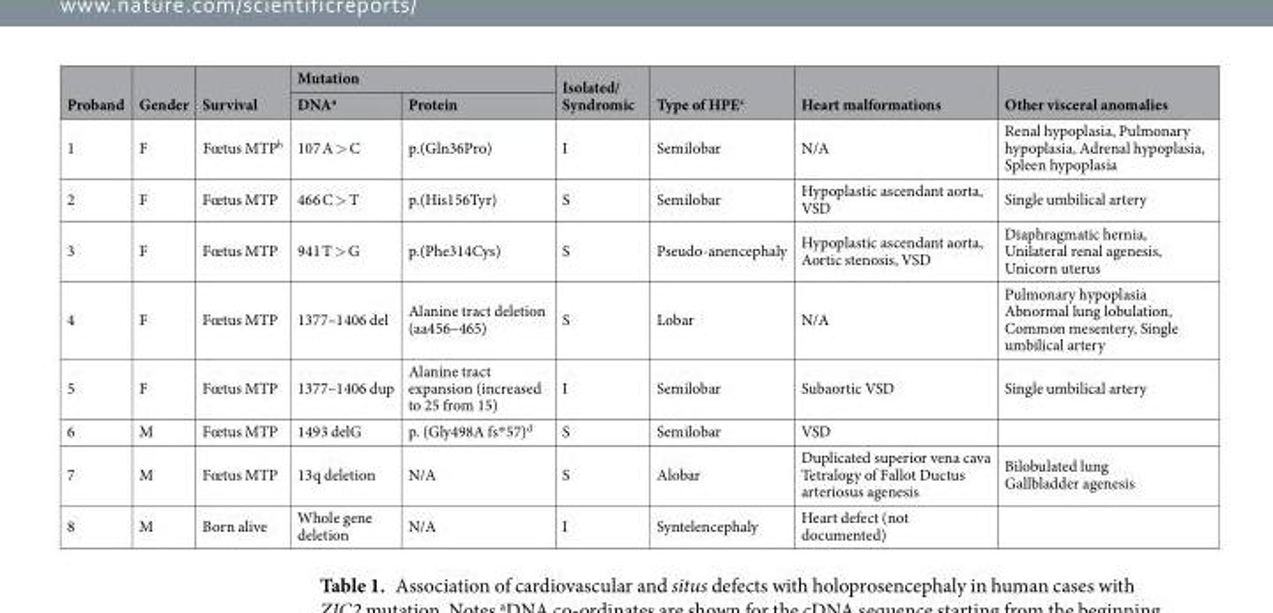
<table><thead><tr><td rowspan="2">Proband</td><td rowspan="2">Gender</td><td rowspan="2">Survival</td><td colspan="2">Mutation</td><td rowspan="2">Isolated/ Syndromic</td><td rowspan="2">Type of HPE<sup>c</sup></td><td rowspan="2">Heart malformations</td><td rowspan="2">Other visceral anomalies</td></tr><tr><td>DNA<sup>a</sup></td><td>Protein</td></tr></thead><tbody><tr><td>1</td><td>F</td><td>Fœtus MTP<sup>b</sup></td><td>107 A &gt; C</td><td>p.(Gln36Pro)</td><td>I</td><td>Semilobar</td><td>N/A</td><td>Renal hypoplasia, Pulmonary hypoplasia, Adrenal hypoplasia, Spleen hypoplasia</td></tr><tr><td>2</td><td>F</td><td>Fœtus MTP</td><td>466 C &gt; T</td><td>p.(His156Tyr)</td><td>S</td><td>Semilobar</td><td>Hypoplastic ascendant aorta, VSD</td><td>Single umbilical artery</td></tr><tr><td>3</td><td>F</td><td>Fœtus MTP</td><td>941 T &gt; G</td><td>p.(Phe314Cys)</td><td>S</td><td>Pseudo-anencephaly</td><td>Hypoplastic ascendant aorta, Aortic stenosis, VSD</td><td>Diaphragmatic hernia, Unilateral renal agenesis, Unicorn uterus</td></tr><tr><td>4</td><td>F</td><td>Fœtus MTP</td><td>1377–1406 del</td><td>Alanine tract deletion (aa456–465)</td><td>S</td><td>Lobar</td><td>N/A</td><td>Pulmonary hypoplasia Abnormal lung lobulation, Common mesentery, Single umbilical artery</td></tr><tr><td>5</td><td>F</td><td>Fœtus MTP</td><td>1377–1406 dup</td><td>Alanine tract expansion (increased to 25 from 15)</td><td>I</td><td>Semilobar</td><td>Subaortic VSD</td><td>Single umbilical artery</td></tr><tr><td>6</td><td>M</td><td>Fœtus MTP</td><td>1493 delG</td><td>p. (Gly498A fs*57)<sup>d</sup></td><td>S</td><td>Semilobar</td><td>VSD</td><td></td></tr><tr><td>7</td><td>M</td><td>Fœtus MTP</td><td>13q deletion</td><td>N/A</td><td>S</td><td>Alobar</td><td>Duplicated superior vena cava Tetralogy of Fallot Ductus arteriosus agenesis</td><td>Bilobulated lung Gallbladder agenesis</td></tr><tr><td>8</td><td>M</td><td>Born alive</td><td>Whole gene deletion</td><td>N/A</td><td>I</td><td>Syntelencephaly</td><td>Heart defect (not documented)</td><td></td></tr></tbody></table>